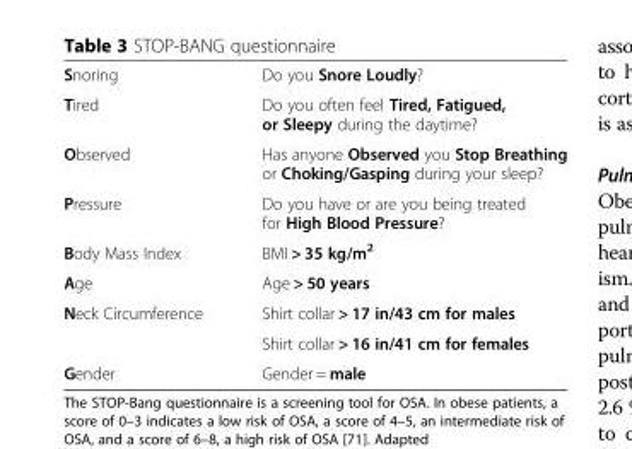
<table><tbody><tr><td>Snoring</td><td>Do you Snore Loudly?</td></tr><tr><td>Tired</td><td>Do you often feel Tired, Fatigued, or Sleepy during the daytime?</td></tr><tr><td>Observed</td><td>Has anyone Observed you Stop Breathing or Choking/Gasping during your sleep?</td></tr><tr><td>Pressure</td><td>Do you have or are you being treated for High Blood Pressure?</td></tr><tr><td>Body Mass Index</td><td>BMI &gt; 35 kg/m<sup>2</sup></td></tr><tr><td>Age</td><td>Age &gt; 50 years</td></tr><tr><td rowspan="2">Neck Circumference</td><td>Shirt collar &gt; 17 in/43 cm for males</td></tr><tr><td>Shirt collar &gt; 16 in/41 cm for females</td></tr><tr><td>Gender</td><td>Gender = male</td></tr></tbody></table>